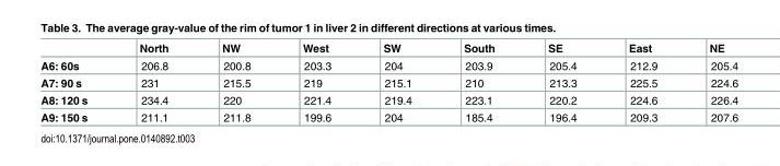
<table><thead><tr><td></td><td>North</td><td>NW</td><td>West</td><td>SW</td><td>South</td><td>SE</td><td>East</td><td>NE</td></tr></thead><tbody><tr><td>A6: 60s</td><td>206.8</td><td>200.8</td><td>203.3</td><td>204</td><td>203.9</td><td>205.4</td><td>212.9</td><td>205.4</td></tr><tr><td>A7: 90 s</td><td>231</td><td>215.5</td><td>219</td><td>215.1</td><td>210</td><td>213.3</td><td>225.5</td><td>224.6</td></tr><tr><td>A8: 120 s</td><td>234.4</td><td>220</td><td>221.4</td><td>219.4</td><td>223.1</td><td>220.2</td><td>224.6</td><td>226.4</td></tr><tr><td>A9: 150 s</td><td>211.1</td><td>211.8</td><td>199.6</td><td>204</td><td>185.4</td><td>196.4</td><td>209.3</td><td>207.6</td></tr></tbody></table>